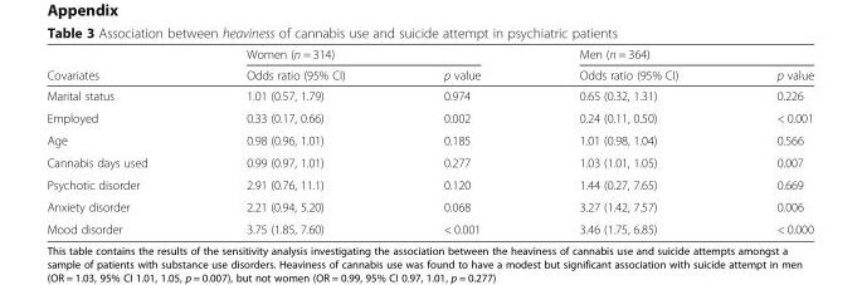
<table><thead><tr><td rowspan="2">Covariates</td><td colspan="2">Women (n = 314)</td><td colspan="2">Men (n = 364)</td></tr><tr><td>Odds ratio (95% CI)</td><td>p value</td><td>Odds ratio (95% CI)</td><td>p value</td></tr></thead><tbody><tr><td>Marital status</td><td>1.01 (0.57, 1.79)</td><td>0.974</td><td>0.65 (0.32, 1.31)</td><td>0.226</td></tr><tr><td>Employed</td><td>0.33 (0.17, 0.66)</td><td>0.002</td><td>0.24 (0.11, 0.50)</td><td>&lt; 0.001</td></tr><tr><td>Age</td><td>0.98 (0.96, 1.01)</td><td>0.185</td><td>1.01 (0.98, 1.04)</td><td>0.566</td></tr><tr><td>Cannabis days used</td><td>0.99 (0.97, 1.01)</td><td>0.277</td><td>1.03 (1.01, 1.05)</td><td>0.007</td></tr><tr><td>Psychotic disorder</td><td>2.91 (0.76, 11.1)</td><td>0.120</td><td>1.44 (0.27, 7.65)</td><td>0.669</td></tr><tr><td>Anxiety disorder</td><td>2.21 (0.94, 5.20)</td><td>0.068</td><td>3.27 (1.42, 7.57)</td><td>0.006</td></tr><tr><td>Mood disorder</td><td>3.75 (1.85, 7.60)</td><td>&lt; 0.001</td><td>3.46 (1.75, 6.85)</td><td>&lt; 0.000</td></tr></tbody></table>